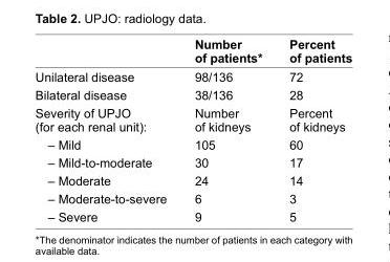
<table><thead><tr><td></td><td>number of patients*</td><td>percent of patients</td></tr></thead><tbody><tr><td>Unilateral disease</td><td>98/136</td><td>72</td></tr><tr><td>Bilateral disease</td><td>38/136</td><td>28</td></tr><tr><td>severity of UPJO (for each renal unit):</td><td>number of kidneys</td><td>Percent of kidneys</td></tr><tr><td>– Mild</td><td>105</td><td>60</td></tr><tr><td>– Mild-to-moderate</td><td>30</td><td>17</td></tr><tr><td>– Moderate</td><td>24</td><td>14</td></tr><tr><td>– Moderate-to-severe</td><td>6</td><td>3</td></tr><tr><td>– severe</td><td>9</td><td>5</td></tr></tbody></table>